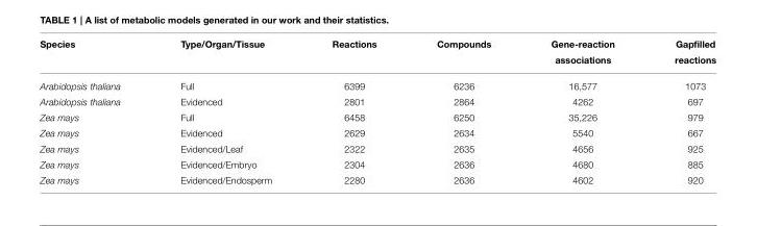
<table><thead><tr><td>Species</td><td>Type/Organ/Tissue</td><td>Reactions</td><td>Compounds</td><td>Gene-reaction associations</td><td>Gapfilled reactions</td></tr></thead><tbody><tr><td>Arabidopsis thaliana</td><td>Full</td><td>6399</td><td>6236</td><td>16,577</td><td>1073</td></tr><tr><td>Arabidopsis thaliana</td><td>Evidenced</td><td>2801</td><td>2864</td><td>4262</td><td>697</td></tr><tr><td>Zea mays</td><td>Full</td><td>6458</td><td>6250</td><td>35,226</td><td>979</td></tr><tr><td>Zea mays</td><td>Evidenced</td><td>2629</td><td>2634</td><td>5540</td><td>667</td></tr><tr><td>Zea mays</td><td>Evidenced/Leaf</td><td>2322</td><td>2635</td><td>4656</td><td>925</td></tr><tr><td>Zea mays</td><td>Evidenced/Embryo</td><td>2304</td><td>2636</td><td>4680</td><td>885</td></tr><tr><td>Zea mays</td><td>Evidenced/Endosperm</td><td>2280</td><td>2636</td><td>4602</td><td>920</td></tr></tbody></table>